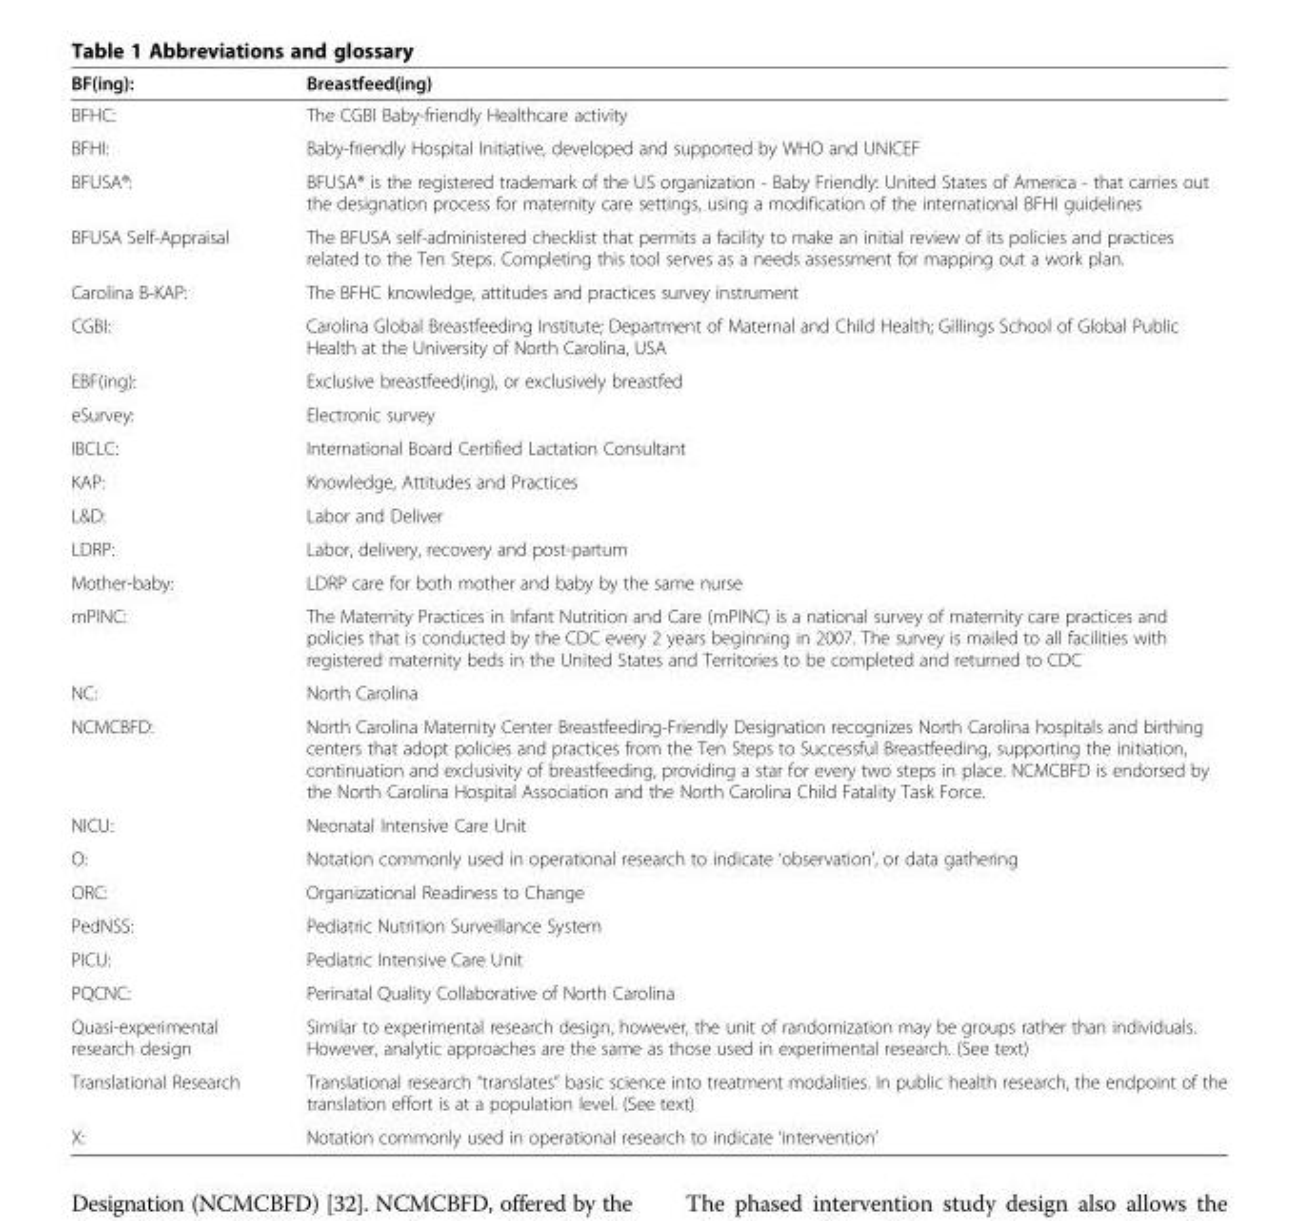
<table><thead><tr><td>BF(ing):</td><td>Breastfeed(ing)</td></tr></thead><tbody><tr><td>BFHC:</td><td>The CGBI Baby-friendly Healthcare activity</td></tr><tr><td>BFHI:</td><td>Baby-friendly Hospital Initiative, developed and supported by WHO and UNICEF</td></tr><tr><td>BFUSA®:</td><td>BFUSA® is the registered trademark of the US organization - Baby Friendly: United States of America - that carries out the designation process for maternity care settings, using a modification of the international BFHI guidelines</td></tr><tr><td>BFUSA Self-Appraisal</td><td>The BFUSA self-administered checklist that permits a facility to make an initial review of its policies and practices related to the Ten Steps. Completing this tool serves as a needs assessment for mapping out a work plan.</td></tr><tr><td>Carolina B-KAP:</td><td>The BFHC knowledge, attitudes and practices survey instrument</td></tr><tr><td>CGBI:</td><td>Carolina Global Breastfeeding Institute; Department of Maternal and Child Health; Gillings School of Global Public Health at the University of North Carolina, USA</td></tr><tr><td>EBF(ing):</td><td>Exclusive breastfeed(ing), or exclusively breastfed</td></tr><tr><td>eSurvey:</td><td>Electronic survey</td></tr><tr><td>IBCLC:</td><td>International Board Certified Lactation Consultant</td></tr><tr><td>KAP:</td><td>Knowledge, Attitudes and Practices</td></tr><tr><td>L&amp;D:</td><td>Labor and Deliver</td></tr><tr><td>LDRP:</td><td>Labor, delivery, recovery and post-partum</td></tr><tr><td>Mother-baby:</td><td>LDRP care for both mother and baby by the same nurse</td></tr><tr><td>mPINC:</td><td>The Maternity Practices in Infant Nutrition and Care (mPINC) is a national survey of maternity care practices and policies that is conducted by the CDC every 2 years beginning in 2007. The survey is mailed to all facilities with registered maternity beds in the United States and Territories to be completed and returned to CDC</td></tr><tr><td>NC:</td><td>North Carolina</td></tr><tr><td>NCMCBFD:</td><td>North Carolina Maternity Center Breastfeeding-Friendly Designation recognizes North Carolina hospitals and birthing centers that adopt policies and practices from the Ten Steps to Successful Breastfeeding, supporting the initiation, continuation and exclusivity of breastfeeding, providing a star for every two steps in place. NCMCBFD is endorsed by the North Carolina Hospital Association and the North Carolina Child Fatality Task Force.</td></tr><tr><td>NICU:</td><td>Neonatal Intensive Care Unit</td></tr><tr><td>O:</td><td>Notation commonly used in operational research to indicate ‘observation’, or data gathering</td></tr><tr><td>ORC:</td><td>Organizational Readiness to Change</td></tr><tr><td>PedNSS:</td><td>Pediatric Nutrition Surveillance System</td></tr><tr><td>PICU:</td><td>Pediatric Intensive Care Unit</td></tr><tr><td>PQCNC:</td><td>Perinatal Quality Collaborative of North Carolina</td></tr><tr><td>Quasi-experimental research design</td><td>Similar to experimental research design, however, the unit of randomization may be groups rather than individuals. However, analytic approaches are the same as those used in experimental research. (See text)</td></tr><tr><td>Translational Research</td><td>Translational research “translates” basic science into treatment modalities. In public health research, the endpoint of the translation effort is at a population level. (See text)</td></tr><tr><td>X:</td><td>Notation commonly used in operational research to indicate ‘intervention’</td></tr></tbody></table>